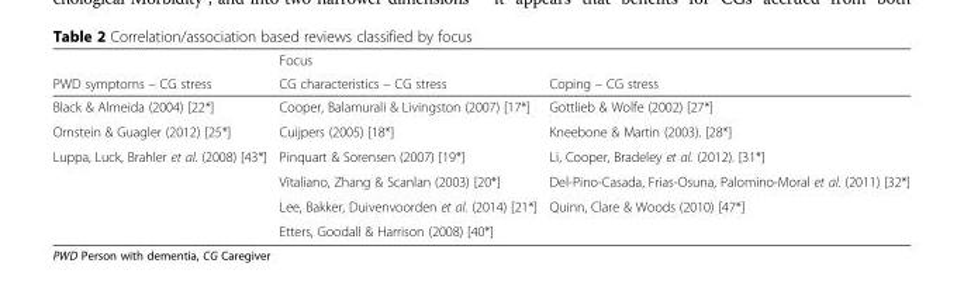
<table><thead><tr><td rowspan="2">PWD symptoms – CG stress</td><td rowspan="2">Focus CG characteristics – CG stress</td><td rowspan="2">Coping – CG stress</td></tr><tr></tr></thead><tbody><tr><td>Black &amp; Almeida (2004) [22*]</td><td>Cooper, Balamurali &amp; Livingston (2007) [17*]</td><td>Gottlieb &amp; Wolfe (2002) [27*]</td></tr><tr><td>Ornstein &amp; Guagler (2012) [25*]</td><td>Cuijpers (2005) [18*]</td><td>Kneebone &amp; Martin (2003). [28*]</td></tr><tr><td rowspan="4">Luppa, Luck, Brahler et al. (2008) [43*]</td><td>Pinquart &amp; Sorensen (2007) [19*]</td><td>Li, Cooper, Bradeley et al. (2012). [31*]</td></tr><tr><td>Vitaliano, Zhang &amp; Scanlan (2003) [20*]</td><td>Del-Pino-Casada, Frias-Osuna, Palomino-Moral et al. (2011) [32*]</td></tr><tr><td>Lee, Bakker, Duivenvoorden et al. (2014) [21*]</td><td>Quinn, Clare &amp; Woods (2010) [47*]</td></tr><tr><td>Etters, Goodall &amp; Harrison (2008) [40*]</td><td></td></tr></tbody></table>